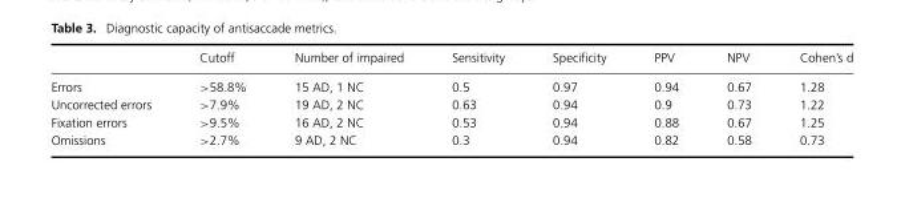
<table><thead><tr><td></td><td>Cutoff</td><td>Number of impaired</td><td>Sensitivity</td><td>Specificity</td><td>PPV</td><td>NPV</td><td>Cohen’s d</td></tr></thead><tbody><tr><td>Errors</td><td>&gt;58.8%</td><td>15 AD, 1 NC</td><td>0.5</td><td>0.97</td><td>0.94</td><td>0.67</td><td>1.28</td></tr><tr><td>Uncorrected errors</td><td>&gt;7.9%</td><td>19 AD, 2 NC</td><td>0.63</td><td>0.94</td><td>0.9</td><td>0.73</td><td>1.22</td></tr><tr><td>Fixation errors</td><td>&gt;9.5%</td><td>16 AD, 2 NC</td><td>0.53</td><td>0.94</td><td>0.88</td><td>0.67</td><td>1.25</td></tr><tr><td>Omissions</td><td>&gt;2.7%</td><td>9 AD, 2 NC</td><td>0.3</td><td>0.94</td><td>0.82</td><td>0.58</td><td>0.73</td></tr></tbody></table>